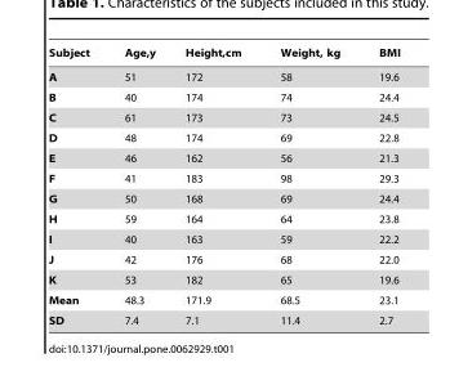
<table><thead><tr><td>Subject</td><td>Age,y</td><td>Height,cm</td><td>Weight, kg</td><td>BMI</td></tr></thead><tbody><tr><td>A</td><td>51</td><td>172</td><td>58</td><td>19.6</td></tr><tr><td>B</td><td>40</td><td>174</td><td>74</td><td>24.4</td></tr><tr><td>C</td><td>61</td><td>173</td><td>73</td><td>24.5</td></tr><tr><td>D</td><td>48</td><td>174</td><td>69</td><td>22.8</td></tr><tr><td>E</td><td>46</td><td>162</td><td>56</td><td>21.3</td></tr><tr><td>F</td><td>41</td><td>183</td><td>98</td><td>29.3</td></tr><tr><td>G</td><td>50</td><td>168</td><td>69</td><td>24.4</td></tr><tr><td>H</td><td>59</td><td>164</td><td>64</td><td>23.8</td></tr><tr><td>I</td><td>40</td><td>163</td><td>59</td><td>22.2</td></tr><tr><td>J</td><td>42</td><td>176</td><td>68</td><td>22.0</td></tr><tr><td>K</td><td>53</td><td>182</td><td>65</td><td>19.6</td></tr><tr><td>Mean</td><td>48.3</td><td>171.9</td><td>68.5</td><td>23.1</td></tr><tr><td>SD</td><td>7.4</td><td>7.1</td><td>11.4</td><td>2.7</td></tr></tbody></table>